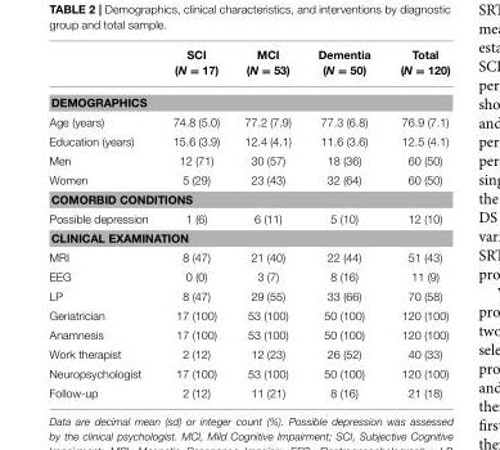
<table><thead><tr><td></td><td>SCI (N = 17)</td><td>MCI (N = 53)</td><td>Dementia (N = 50)</td><td>Total (N = 120)</td></tr></thead><tbody><tr><td colspan="5">DEMOGRAPHICS</td></tr><tr><td>Age (years)</td><td>74.8 (5.0)</td><td>77.2 (7.9)</td><td>77.3 (6.8)</td><td>76.9 (7.1)</td></tr><tr><td>Education (years)</td><td>15.6 (3.9)</td><td>12.4 (4.1)</td><td>11.6 (3.6)</td><td>12.5 (4.1)</td></tr><tr><td>Men</td><td>12 (71)</td><td>30 (57)</td><td>18 (36)</td><td>60 (50)</td></tr><tr><td>Women</td><td>5 (29)</td><td>23 (43)</td><td>32 (64)</td><td>60 (50)</td></tr><tr><td colspan="5">COMORBID CONDITIONS</td></tr><tr><td>Possible depression</td><td>1 (6)</td><td>6 (11)</td><td>5 (10)</td><td>12 (10)</td></tr><tr><td colspan="5">CLINICAL EXAMINATION</td></tr><tr><td>MRI</td><td>8 (47)</td><td>21 (40)</td><td>22 (44)</td><td>51 (43)</td></tr><tr><td>EEG</td><td>0 (0)</td><td>3 (7)</td><td>8 (16)</td><td>11 (9)</td></tr><tr><td>LP</td><td>8 (47)</td><td>29 (55)</td><td>33 (66)</td><td>70 (58)</td></tr><tr><td>Geriatrician</td><td>17 (100)</td><td>53 (100)</td><td>50 (100)</td><td>120 (100)</td></tr><tr><td>Anamnesis</td><td>17 (100)</td><td>53 (100)</td><td>50 (100)</td><td>120 (100)</td></tr><tr><td>Work therapist</td><td>2 (12)</td><td>12 (23)</td><td>26 (52)</td><td>40 (33)</td></tr><tr><td>Neuropsychologist</td><td>17 (100)</td><td>53 (100)</td><td>50 (100)</td><td>120 (100)</td></tr><tr><td>Follow-up</td><td>2 (12)</td><td>11 (21)</td><td>8 (16)</td><td>21 (18)</td></tr></tbody></table>